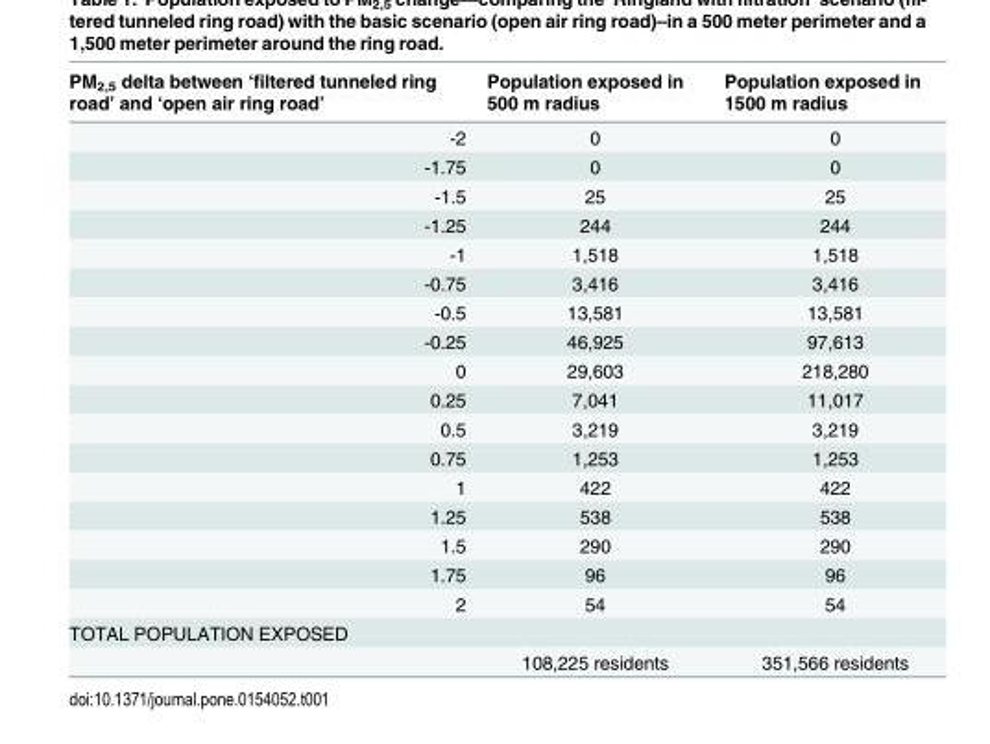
<table><thead><tr><td>PM<sub>2,5</sub> delta between ‘filtered tunneled ring road’ and ‘open air ring road’</td><td>Population exposed in 500 m radius</td><td>Population exposed in 1500 m radius</td></tr></thead><tbody><tr><td>-2</td><td>0</td><td>0</td></tr><tr><td>-1.75</td><td>0</td><td>0</td></tr><tr><td>-1.5</td><td>25</td><td>25</td></tr><tr><td>-1.25</td><td>244</td><td>244</td></tr><tr><td>-1</td><td>1,518</td><td>1,518</td></tr><tr><td>-0.75</td><td>3,416</td><td>3,416</td></tr><tr><td>-0.5</td><td>13,581</td><td>13,581</td></tr><tr><td>-0.25</td><td>46,925</td><td>97,613</td></tr><tr><td>0</td><td>29,603</td><td>218,280</td></tr><tr><td>0.25</td><td>7,041</td><td>11,017</td></tr><tr><td>0.5</td><td>3,219</td><td>3,219</td></tr><tr><td>0.75</td><td>1,253</td><td>1,253</td></tr><tr><td>1</td><td>422</td><td>422</td></tr><tr><td>1.25</td><td>538</td><td>538</td></tr><tr><td>1.5</td><td>290</td><td>290</td></tr><tr><td>1.75</td><td>96</td><td>96</td></tr><tr><td>2</td><td>54</td><td>54</td></tr><tr><td colspan="3">TOTAL POPULATION EXPOSED</td></tr><tr><td></td><td>108,225 residents</td><td>351,566 residents</td></tr></tbody></table>